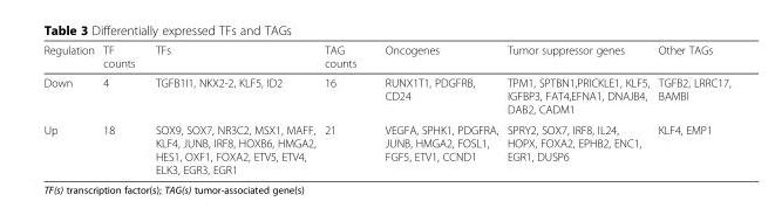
<table><thead><tr><td>Regulation</td><td>TF counts</td><td>TFs</td><td>TAG counts</td><td>Oncogenes</td><td>Tumor suppressor genes</td><td>Other TAGs</td></tr></thead><tbody><tr><td>Down</td><td>4</td><td>TGFB1I1, NKX2-2, KLF5, ID2</td><td>16</td><td>RUNX1T1, PDGFRB, CD24</td><td>TPM1, SPTBN1,PRICKLE1, KLF5, IGFBP3, FAT4,EFNA1, DNAJB4, DAB2, CADM1</td><td>TGFB2, LRRC17, BAMBI</td></tr><tr><td>Up</td><td>18</td><td>SOX9, SOX7, NR3C2, MSX1, MAFF, KLF4, JUNB, IRF8, HOXB6, HMGA2, HES1, OXF1, FOXA2, ETV5, ETV4, ELK3, EGR3, EGR1</td><td>21</td><td>VEGFA, SPHK1, PDGFRA, JUNB, HMGA2, FOSL1, FGF5, ETV1, CCND1</td><td>SPRY2, SOX7, IRF8, IL24, HOPX, FOXA2, EPHB2, ENC1, EGR1, DUSP6</td><td>KLF4, EMP1</td></tr></tbody></table>